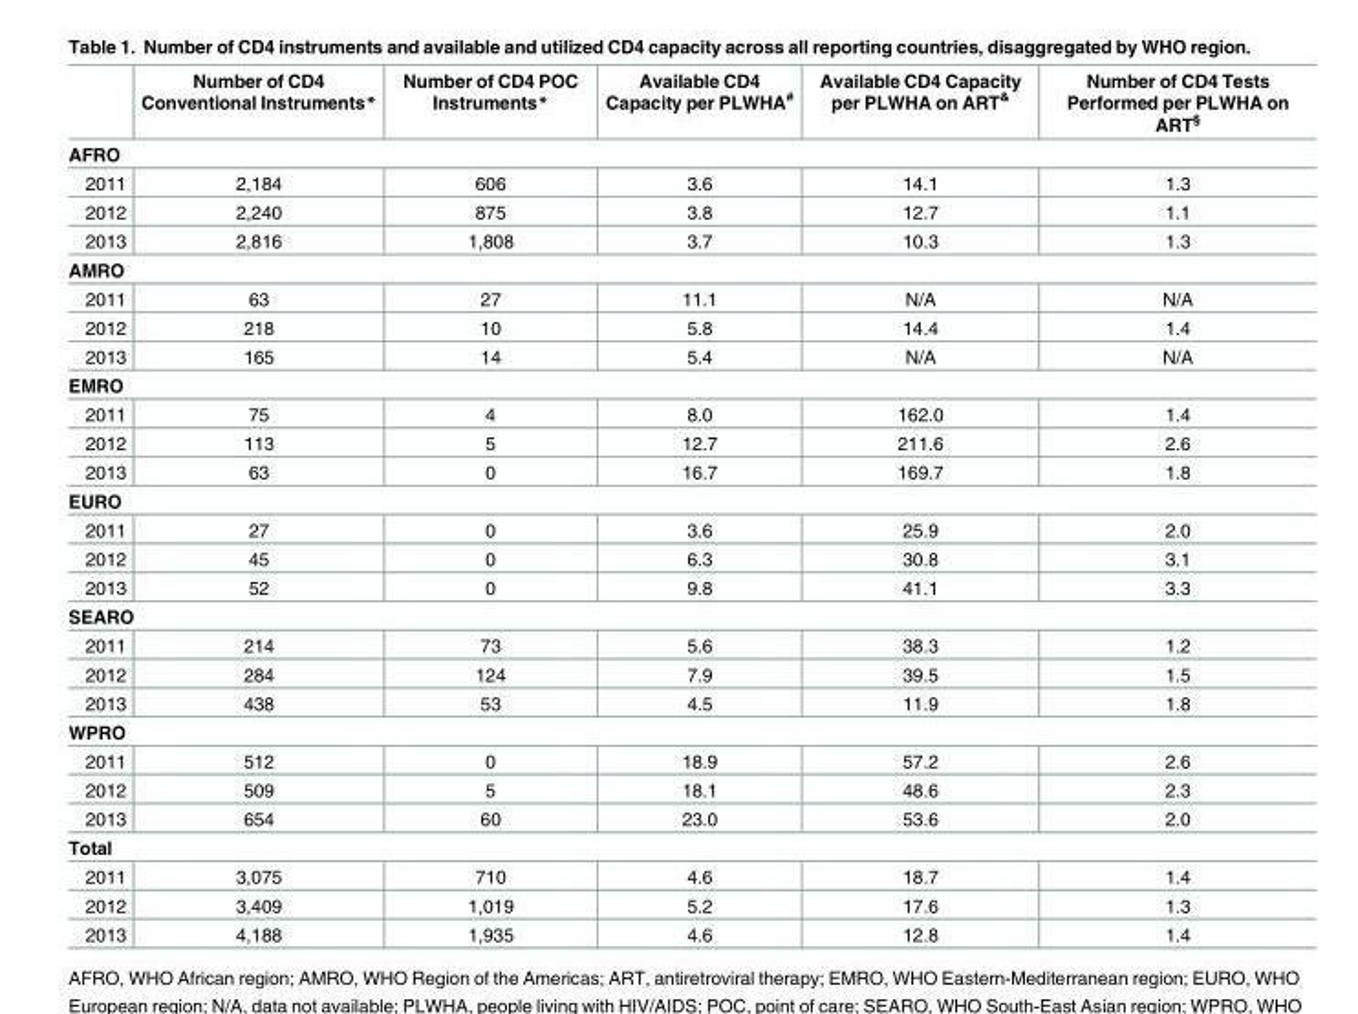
<table><thead><tr><td></td><td>Number of CD4 Conventional Instruments*</td><td>Number of CD4 POC Instruments*</td><td>Available CD4 Capacity per PLWHA<sup>#</sup></td><td>Available CD4 Capacity per PLWHA on ART<sup>&amp;</sup></td><td>Number of CD4 Tests Performed per PLWHA on ART<sup>§</sup></td></tr></thead><tbody><tr><td colspan="6">AFRO</td></tr><tr><td>2011</td><td>2,184</td><td>606</td><td>3.6</td><td>14.1</td><td>1.3</td></tr><tr><td>2012</td><td>2,240</td><td>875</td><td>3.8</td><td>12.7</td><td>1.1</td></tr><tr><td>2013</td><td>2,816</td><td>1,808</td><td>3.7</td><td>10.3</td><td>1.3</td></tr><tr><td colspan="6">AMRO</td></tr><tr><td>2011</td><td>63</td><td>27</td><td>11.1</td><td>N/A</td><td>N/A</td></tr><tr><td>2012</td><td>218</td><td>10</td><td>5.8</td><td>14.4</td><td>1.4</td></tr><tr><td>2013</td><td>165</td><td>14</td><td>5.4</td><td>N/A</td><td>N/A</td></tr><tr><td colspan="6">EMRO</td></tr><tr><td>2011</td><td>75</td><td>4</td><td>8.0</td><td>162.0</td><td>1.4</td></tr><tr><td>2012</td><td>113</td><td>5</td><td>12.7</td><td>211.6</td><td>2.6</td></tr><tr><td>2013</td><td>63</td><td>0</td><td>16.7</td><td>169.7</td><td>1.8</td></tr><tr><td colspan="6">EURO</td></tr><tr><td>2011</td><td>27</td><td>0</td><td>3.6</td><td>25.9</td><td>2.0</td></tr><tr><td>2012</td><td>45</td><td>0</td><td>6.3</td><td>30.8</td><td>3.1</td></tr><tr><td>2013</td><td>52</td><td>0</td><td>9.8</td><td>41.1</td><td>3.3</td></tr><tr><td colspan="6">SEARO</td></tr><tr><td>2011</td><td>214</td><td>73</td><td>5.6</td><td>38.3</td><td>1.2</td></tr><tr><td>2012</td><td>284</td><td>124</td><td>7.9</td><td>39.5</td><td>1.5</td></tr><tr><td>2013</td><td>438</td><td>53</td><td>4.5</td><td>11.9</td><td>1.8</td></tr><tr><td colspan="6">WPRO</td></tr><tr><td>2011</td><td>512</td><td>0</td><td>18.9</td><td>57.2</td><td>2.6</td></tr><tr><td>2012</td><td>509</td><td>5</td><td>18.1</td><td>48.6</td><td>2.3</td></tr><tr><td>2013</td><td>654</td><td>60</td><td>23.0</td><td>53.6</td><td>2.0</td></tr><tr><td colspan="6">Total</td></tr><tr><td>2011</td><td>3,075</td><td>710</td><td>4.6</td><td>18.7</td><td>1.4</td></tr><tr><td>2012</td><td>3,409</td><td>1,019</td><td>5.2</td><td>17.6</td><td>1.3</td></tr><tr><td>2013</td><td>4,188</td><td>1,935</td><td>4.6</td><td>12.8</td><td>1.4</td></tr></tbody></table>